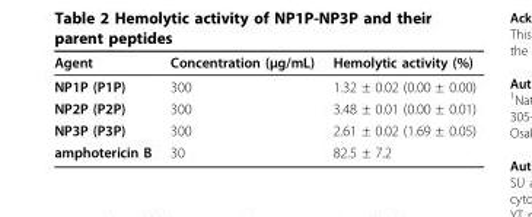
<table><thead><tr><td>Agent</td><td>Concentration (μg/mL)</td><td>Hemolytic activity (%)</td></tr></thead><tbody><tr><td>NP1P (P1P)</td><td>300</td><td>1.32 ± 0.02 (0.00 ± 0.00)</td></tr><tr><td>NP2P (P2P)</td><td>300</td><td>3.48 ± 0.01 (0.00 ± 0.01)</td></tr><tr><td>NP3P (P3P)</td><td>300</td><td>2.61 ± 0.02 (1.69 ± 0.05)</td></tr><tr><td>amphotericin B</td><td>30</td><td>82.5 ± 7.2</td></tr></tbody></table>